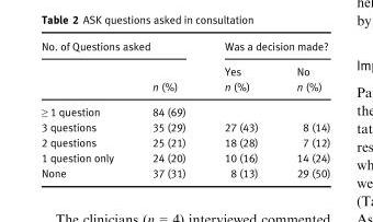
<table><thead><tr><td colspan="2">No. of Questions asked</td><td colspan="2">Was a decision made?</td></tr><tr><td rowspan="2"></td><td rowspan="2">n (%)</td><td rowspan="2">Yes n (%)</td><td rowspan="2">No n (%)</td></tr><tr></tr></thead><tbody><tr><td>≥ 1 question</td><td>84 (69)</td><td></td><td></td></tr><tr><td>3 questions</td><td>35 (29)</td><td>27 (43)</td><td>8 (14)</td></tr><tr><td>2 questions</td><td>25 (21)</td><td>18 (28)</td><td>7 (12)</td></tr><tr><td>1 question only</td><td>24 (20)</td><td>10 (16)</td><td>14 (24)</td></tr><tr><td>None</td><td>37 (31)</td><td>8 (13)</td><td>29 (50)</td></tr></tbody></table>